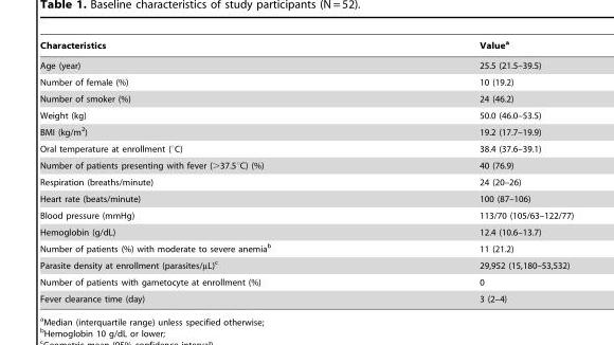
<table><thead><tr><td>Characteristics</td><td>Value<sup>a</sup></td></tr></thead><tbody><tr><td>Age (year)</td><td>25.5 (21.5–39.5)</td></tr><tr><td>Number of female (%)</td><td>10 (19.2)</td></tr><tr><td>Number of smoker (%)</td><td>24 (46.2)</td></tr><tr><td>Weight (kg)</td><td>50.0 (46.0–53.5)</td></tr><tr><td>BMI (kg/m<sup>2</sup>)</td><td>19.2 (17.7–19.9)</td></tr><tr><td>Oral temperature at enrollment (°C)</td><td>38.4 (37.6–39.1)</td></tr><tr><td>Number of patients presenting with fever (&gt;37.5°C) (%)</td><td>40 (76.9)</td></tr><tr><td>Respiration (breaths/minute)</td><td>24 (20–26)</td></tr><tr><td>Heart rate (beats/minute)</td><td>100 (87–106)</td></tr><tr><td>Blood pressure (mmHg)</td><td>113/70 (105/63–122/77)</td></tr><tr><td>Hemoglobin (g/dL)</td><td>12.4 (10.6–13.7)</td></tr><tr><td>Number of patients (%) with moderate to severe anemia<sup>b</sup></td><td>11 (21.2)</td></tr><tr><td>Parasite density at enrollment (parasites/µL)<sup>c</sup></td><td>29,952 (15,180–53,532)</td></tr><tr><td>Number of patients with gametocyte at enrollment (%)</td><td>0</td></tr><tr><td>Fever clearance time (day)</td><td>3 (2–4)</td></tr></tbody></table>